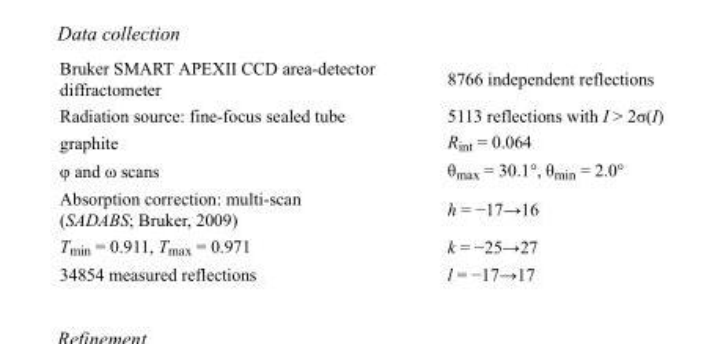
<table><tbody><tr><td>Bruker SMART APEXII CCD area-detector diffractometer</td><td>8766 independent reflections</td></tr><tr><td>Radiation source: fine-focus sealed tube</td><td>5113 reflections with I &gt; 2σ(I)</td></tr><tr><td>graphite</td><td>R<sub>int</sub> = 0.064</td></tr><tr><td>φ and ω scans</td><td>θ<sub>max</sub> = 30.1°, θ<sub>min</sub> = 2.0°</td></tr><tr><td>Absorption correction: multi-scan (SADABS; Bruker, 2009)</td><td>h = −17→16</td></tr><tr><td>T<sub>min</sub> = 0.911, T<sub>max</sub> = 0.971</td><td>k = −25→27</td></tr><tr><td>34854 measured reflections</td><td>l = −17→17</td></tr></tbody></table>